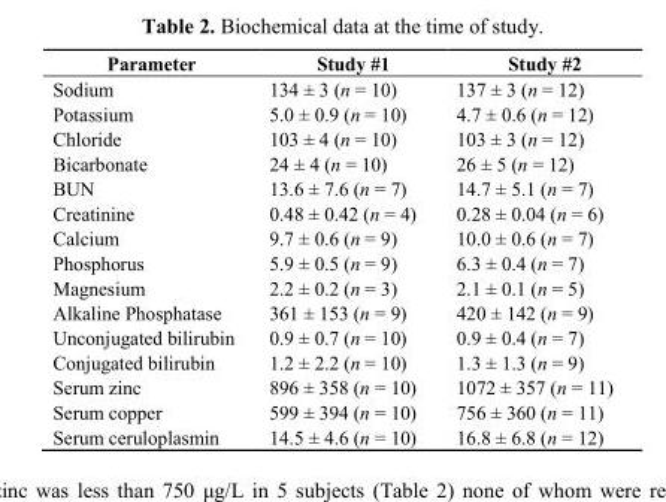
<table><thead><tr><td>Parameter</td><td>Study #1</td><td>Study #2</td></tr></thead><tbody><tr><td>Sodium</td><td>134 ± 3 (n = 10)</td><td>137 ± 3 (n = 12)</td></tr><tr><td>Potassium</td><td>5.0 ± 0.9 (n = 10)</td><td>4.7 ± 0.6 (n = 12)</td></tr><tr><td>Chloride</td><td>103 ± 4 (n = 10)</td><td>103 ± 3 (n = 12)</td></tr><tr><td>Bicarbonate</td><td>24 ± 4 (n = 10)</td><td>26 ± 5 (n = 12)</td></tr><tr><td>BUN</td><td>13.6 ± 7.6 (n = 7)</td><td>14.7 ± 5.1 (n = 7)</td></tr><tr><td>Creatinine</td><td>0.48 ± 0.42 (n = 4)</td><td>0.28 ± 0.04 (n = 6)</td></tr><tr><td>Calcium</td><td>9.7 ± 0.6 (n = 9)</td><td>10.0 ± 0.6 (n = 7)</td></tr><tr><td>Phosphorus</td><td>5.9 ± 0.5 (n = 9)</td><td>6.3 ± 0.4 (n = 7)</td></tr><tr><td>Magnesium</td><td>2.2 ± 0.2 (n = 3)</td><td>2.1 ± 0.1 (n = 5)</td></tr><tr><td>Alkaline Phosphatase</td><td>361 ± 153 (n = 9)</td><td>420 ± 142 (n = 9)</td></tr><tr><td>Unconjugated bilirubin</td><td>0.9 ± 0.7 (n = 10)</td><td>0.9 ± 0.4 (n = 7)</td></tr><tr><td>Conjugated bilirubin</td><td>1.2 ± 2.2 (n = 10)</td><td>1.3 ± 1.3 (n = 9)</td></tr><tr><td>Serum zinc</td><td>896 ± 358 (n = 10)</td><td>1072 ± 357 (n = 11)</td></tr><tr><td>Serum copper</td><td>599 ± 394 (n = 10)</td><td>756 ± 360 (n = 11)</td></tr><tr><td>Serum ceruloplasmin</td><td>14.5 ± 4.6 (n = 10)</td><td>16.8 ± 6.8 (n = 12)</td></tr></tbody></table>